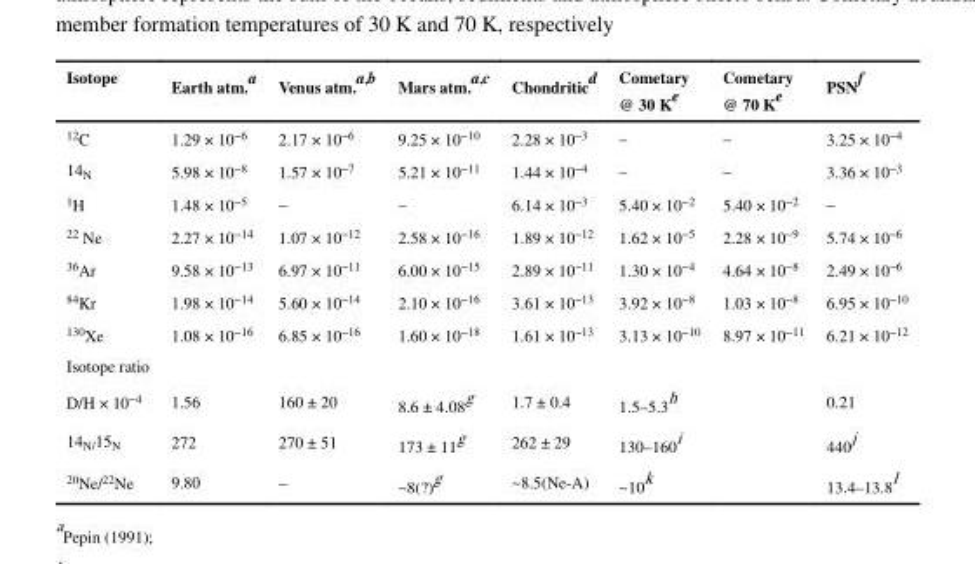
<table><thead><tr><td>Isotope</td><td>Earth atm.<sup>a</sup></td><td>Venus atm.<sup>a,b</sup></td><td>Mars atm.<sup>a,c</sup></td><td>Chondritic<sup>d</sup></td><td>Cometary @ 30 K<sup>e</sup></td><td>Cometary @ 70 K<sup>e</sup></td><td>PSN<sup>f</sup></td></tr></thead><tbody><tr><td><sup>12</sup>C</td><td>1.29 × 10<sup>−6</sup></td><td>2.17 × 10<sup>−6</sup></td><td>9.25 × 10<sup>−10</sup></td><td>2.28 × 10<sup>−3</sup></td><td>–</td><td>–</td><td>3.25 × 10<sup>−4</sup></td></tr><tr><td>14<sub>N</sub></td><td>5.98 × 10<sup>−8</sup></td><td>1.57 × 10<sup>−7</sup></td><td>5.21 × 10<sup>−11</sup></td><td>1.44 × 10<sup>−4</sup></td><td>–</td><td>–</td><td>3.36 × 10<sup>−3</sup></td></tr><tr><td><sup>1</sup>H</td><td>1.48 × 10<sup>−5</sup></td><td>–</td><td>–</td><td>6.14 × 10<sup>−3</sup></td><td>5.40 × 10<sup>−2</sup></td><td>5.40 × 10<sup>−2</sup></td><td>–</td></tr><tr><td><sup>22</sup> Ne</td><td>2.27 × 10<sup>−14</sup></td><td>1.07 × 10<sup>−12</sup></td><td>2.58 × 10<sup>−16</sup></td><td>1.89 × 10<sup>−12</sup></td><td>1.62 × 10<sup>−5</sup></td><td>2.28 × 10<sup>−9</sup></td><td>5.74 × 10<sup>−6</sup></td></tr><tr><td><sup>36</sup>Ar</td><td>9.58 × 10<sup>−13</sup></td><td>6.97 × 10<sup>−11</sup></td><td>6.00 × 10<sup>−15</sup></td><td>2.89 × 10<sup>−11</sup></td><td>1.30 × 10<sup>−4</sup></td><td>4.64 × 10<sup>−8</sup></td><td>2.49 × 10<sup>−6</sup></td></tr><tr><td><sup>84</sup>Kr</td><td>1.98 × 10<sup>−14</sup></td><td>5.60 × 10<sup>−14</sup></td><td>2.10 × 10<sup>−16</sup></td><td>3.61 × 10<sup>−13</sup></td><td>3.92 × 10<sup>−8</sup></td><td>1.03 × 10<sup>−8</sup></td><td>6.95 × 10<sup>−10</sup></td></tr><tr><td><sup>130</sup>Xe</td><td>1.08 × 10<sup>−16</sup></td><td>6.85 × 10<sup>−16</sup></td><td>1.60 × 10<sup>−18</sup></td><td>1.61 × 10<sup>−13</sup></td><td>3.13 × 10<sup>−10</sup></td><td>8.97 × 10<sup>−11</sup></td><td>6.21 × 10<sup>−12</sup></td></tr><tr><td colspan="8">Isotope ratio</td></tr><tr><td>D/H × 10<sup>−4</sup></td><td>1.56</td><td>160 ± 20</td><td>8.6 ± 4.08<sup>g</sup></td><td>1.7 ± 0.4</td><td>1.5–5.3<sup>h</sup></td><td></td><td>0.21</td></tr><tr><td>14<sub>N/</sub>15<sub>N</sub></td><td>272</td><td>270 ± 51</td><td>173 ± 11<sup>g</sup></td><td>262 ± 29</td><td>130–160<sup>i</sup></td><td></td><td>440<sup>j</sup></td></tr><tr><td><sup>20</sup>Ne/<sup>22</sup>Ne</td><td>9.80</td><td>–</td><td>~8(?)<sup>g</sup></td><td>~8.5(Ne-A)</td><td>~10<sup>k</sup></td><td></td><td>13.4–13.8<sup>l</sup></td></tr></tbody></table>